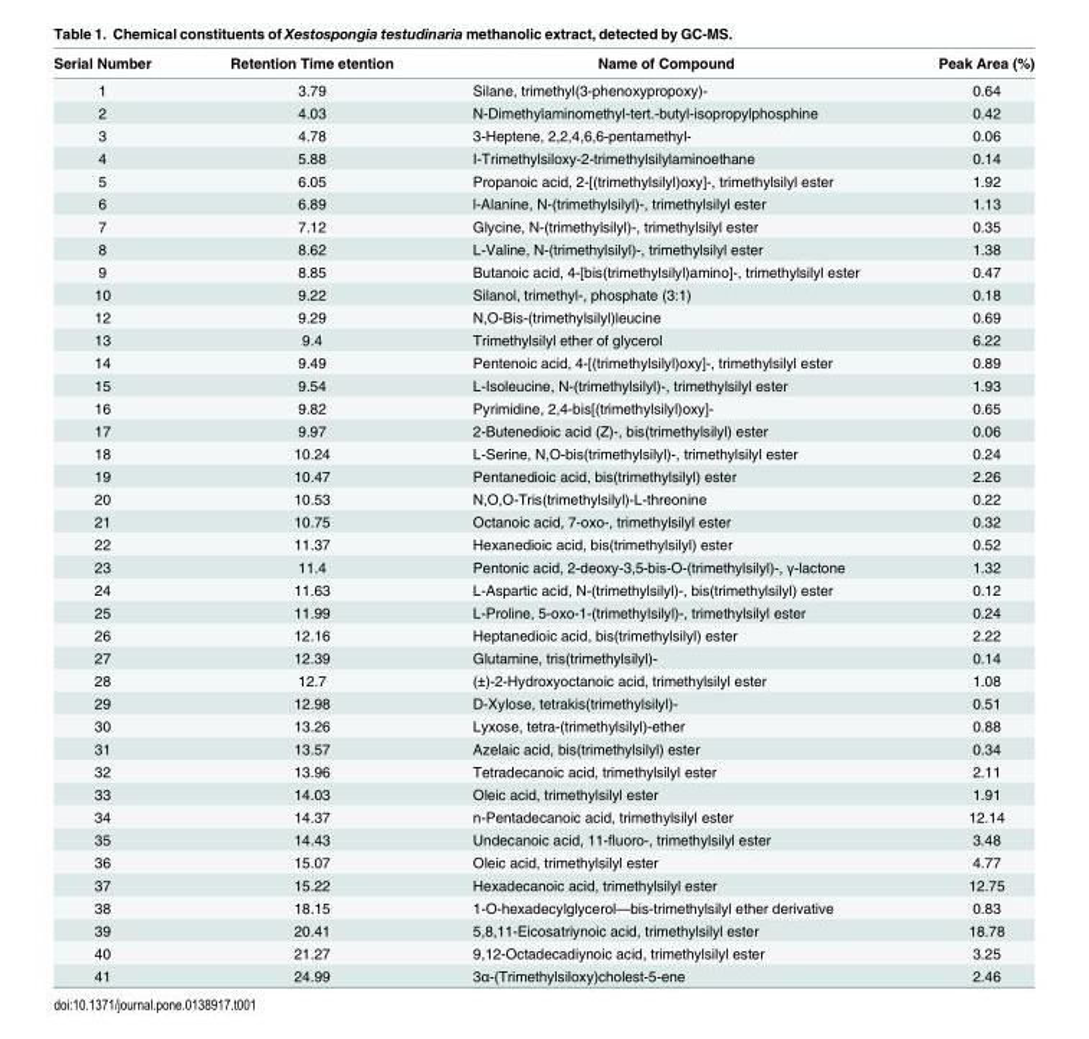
<table><thead><tr><td>Serial Number</td><td>Retention Time etention</td><td>Name of Compound</td><td>Peak Area (%)</td></tr></thead><tbody><tr><td>1</td><td>3.79</td><td>Silane, trimethyl(3-phenoxypropoxy)-</td><td>0.64</td></tr><tr><td>2</td><td>4.03</td><td>N-Dimethylaminomethyl-tert.-butyl-isopropylphosphine</td><td>0.42</td></tr><tr><td>3</td><td>4.78</td><td>3-Heptene, 2,2,4,6,6-pentamethyl-</td><td>0.06</td></tr><tr><td>4</td><td>5.88</td><td>I-Trimethylsiloxy-2-trimethylsilylaminoethane</td><td>0.14</td></tr><tr><td>5</td><td>6.05</td><td>Propanoic acid, 2-[(trimethylsilyl)oxy]-, trimethylsilyl ester</td><td>1.92</td></tr><tr><td>6</td><td>6.89</td><td>l-Alanine, N-(trimethylsilyl)-, trimethylsilyl ester</td><td>1.13</td></tr><tr><td>7</td><td>7.12</td><td>Glycine, N-(trimethylsilyl)-, trimethylsilyl ester</td><td>0.35</td></tr><tr><td>8</td><td>8.62</td><td>L-Valine, N-(trimethylsilyl)-, trimethylsilyl ester</td><td>1.38</td></tr><tr><td>9</td><td>8.85</td><td>Butanoic acid, 4-[bis(trimethylsilyl)amino]-, trimethylsilyl ester</td><td>0.47</td></tr><tr><td>10</td><td>9.22</td><td>Silanol, trimethyl-, phosphate (3:1)</td><td>0.18</td></tr><tr><td>12</td><td>9.29</td><td>N,O-Bis-(trimethylsilyl)leucine</td><td>0.69</td></tr><tr><td>13</td><td>9.4</td><td>Trimethylsilyl ether of glycerol</td><td>6.22</td></tr><tr><td>14</td><td>9.49</td><td>Pentenoic acid, 4-[(trimethylsilyl)oxy]-, trimethylsilyl ester</td><td>0.89</td></tr><tr><td>15</td><td>9.54</td><td>L-Isoleucine, N-(trimethylsilyl)-, trimethylsilyl ester</td><td>1.93</td></tr><tr><td>16</td><td>9.82</td><td>Pyrimidine, 2,4-bis[(trimethylsilyl)oxy]-</td><td>0.65</td></tr><tr><td>17</td><td>9.97</td><td>2-Butenedioic acid (Z)-, bis(trimethylsilyl) ester</td><td>0.06</td></tr><tr><td>18</td><td>10.24</td><td>L-Serine, N,O-bis(trimethylsilyl)-, trimethylsilyl ester</td><td>0.24</td></tr><tr><td>19</td><td>10.47</td><td>Pentanedioic acid, bis(trimethylsilyl) ester</td><td>2.26</td></tr><tr><td>20</td><td>10.53</td><td>N,O,O-Tris(trimethylsilyl)-L-threonine</td><td>0.22</td></tr><tr><td>21</td><td>10.75</td><td>Octanoic acid, 7-oxo-, trimethylsilyl ester</td><td>0.32</td></tr><tr><td>22</td><td>11.37</td><td>Hexanedioic acid, bis(trimethylsilyl) ester</td><td>0.52</td></tr><tr><td>23</td><td>11.4</td><td>Pentonic acid, 2-deoxy-3,5-bis-O-(trimethylsilyl)-, γ-lactone</td><td>1.32</td></tr><tr><td>24</td><td>11.63</td><td>L-Aspartic acid, N-(trimethylsilyl)-, bis(trimethylsilyl) ester</td><td>0.12</td></tr><tr><td>25</td><td>11.99</td><td>L-Proline, 5-oxo-1-(trimethylsilyl)-, trimethylsilyl ester</td><td>0.24</td></tr><tr><td>26</td><td>12.16</td><td>Heptanedioic acid, bis(trimethylsilyl) ester</td><td>2.22</td></tr><tr><td>27</td><td>12.39</td><td>Glutamine, tris(trimethylsilyl)-</td><td>0.14</td></tr><tr><td>28</td><td>12.7</td><td>(±)-2-Hydroxyoctanoic acid, trimethylsilyl ester</td><td>1.08</td></tr><tr><td>29</td><td>12.98</td><td>D-Xylose, tetrakis(trimethylsilyl)-</td><td>0.51</td></tr><tr><td>30</td><td>13.26</td><td>Lyxose, tetra-(trimethylsilyl)-ether</td><td>0.88</td></tr><tr><td>31</td><td>13.57</td><td>Azelaic acid, bis(trimethylsilyl) ester</td><td>0.34</td></tr><tr><td>32</td><td>13.96</td><td>Tetradecanoic acid, trimethylsilyl ester</td><td>2.11</td></tr><tr><td>33</td><td>14.03</td><td>Oleic acid, trimethylsilyl ester</td><td>1.91</td></tr><tr><td>34</td><td>14.37</td><td>n-Pentadecanoic acid, trimethylsilyl ester</td><td>12.14</td></tr><tr><td>35</td><td>14.43</td><td>Undecanoic acid, 11-fluoro-, trimethylsilyl ester</td><td>3.48</td></tr><tr><td>36</td><td>15.07</td><td>Oleic acid, trimethylsilyl ester</td><td>4.77</td></tr><tr><td>37</td><td>15.22</td><td>Hexadecanoic acid, trimethylsilyl ester</td><td>12.75</td></tr><tr><td>38</td><td>18.15</td><td>1-O-hexadecylglycerol—bis-trimethylsilyl ether derivative</td><td>0.83</td></tr><tr><td>39</td><td>20.41</td><td>5,8,11-Eicosatriynoic acid, trimethylsilyl ester</td><td>18.78</td></tr><tr><td>40</td><td>21.27</td><td>9,12-Octadecadiynoic acid, trimethylsilyl ester</td><td>3.25</td></tr><tr><td>41</td><td>24.99</td><td>3α-(Trimethylsiloxy)cholest-5-ene</td><td>2.46</td></tr></tbody></table>